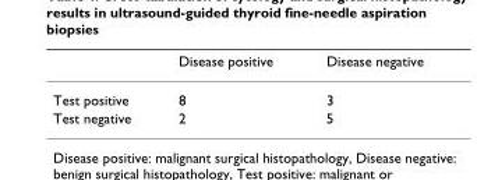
<table><thead><tr><td></td><td>Disease positive</td><td>Disease negative</td></tr></thead><tbody><tr><td>Test positive</td><td>8</td><td>3</td></tr><tr><td>Test negative</td><td>2</td><td>5</td></tr></tbody></table>